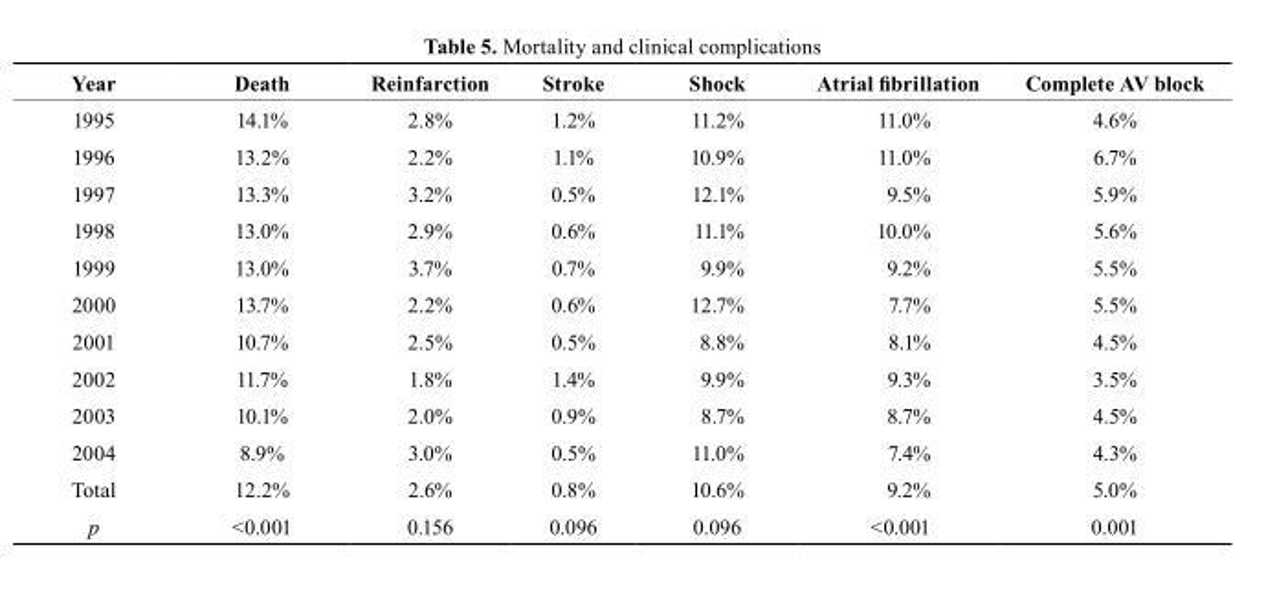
<table><thead><tr><td>Year</td><td>Death</td><td>reinfarction</td><td>stroke</td><td>shock</td><td>Atrial fibrillation</td><td>Complete AV block</td></tr></thead><tbody><tr><td>1995</td><td>14.1%</td><td>2.8%</td><td>1.2%</td><td>11.2%</td><td>11.0%</td><td>4.6%</td></tr><tr><td>1996</td><td>13.2%</td><td>2.2%</td><td>1.1%</td><td>10.9%</td><td>11.0%</td><td>6.7%</td></tr><tr><td>1997</td><td>13.3%</td><td>3.2%</td><td>0.5%</td><td>12.1%</td><td>9.5%</td><td>5.9%</td></tr><tr><td>1998</td><td>13.0%</td><td>2.9%</td><td>0.6%</td><td>11.1%</td><td>10.0%</td><td>5.6%</td></tr><tr><td>1999</td><td>13.0%</td><td>3.7%</td><td>0.7%</td><td>9.9%</td><td>9.2%</td><td>5.5%</td></tr><tr><td>2000</td><td>13.7%</td><td>2.2%</td><td>0.6%</td><td>12.7%</td><td>7.7%</td><td>5.5%</td></tr><tr><td>2001</td><td>10.7%</td><td>2.5%</td><td>0.5%</td><td>8.8%</td><td>8.1%</td><td>4.5%</td></tr><tr><td>2002</td><td>11.7%</td><td>1.8%</td><td>1.4%</td><td>9.9%</td><td>9.3%</td><td>3.5%</td></tr><tr><td>2003</td><td>10.1%</td><td>2.0%</td><td>0.9%</td><td>8.7%</td><td>8.7%</td><td>4.5%</td></tr><tr><td>2004</td><td>8.9%</td><td>3.0%</td><td>0.5%</td><td>11.0%</td><td>7.4%</td><td>4.3%</td></tr><tr><td>Total</td><td>12.2%</td><td>2.6%</td><td>0.8%</td><td>10.6%</td><td>9.2%</td><td>5.0%</td></tr><tr><td>p</td><td>&lt;0.001</td><td>0.156</td><td>0.096</td><td>0.096</td><td>&lt;0.001</td><td>0.001</td></tr></tbody></table>